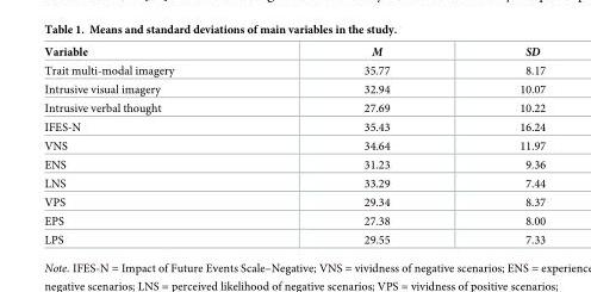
<table><thead><tr><td>Variable</td><td>M</td><td>SD</td></tr></thead><tbody><tr><td>Trait multi-modal imagery</td><td>35.77</td><td>8.17</td></tr><tr><td>Intrusive visual imagery</td><td>32.94</td><td>10.07</td></tr><tr><td>Intrusive verbal thought</td><td>27.69</td><td>10.22</td></tr><tr><td>IFES-N</td><td>35.43</td><td>16.24</td></tr><tr><td>VNS</td><td>34.64</td><td>11.97</td></tr><tr><td>ENS</td><td>31.23</td><td>9.36</td></tr><tr><td>LNS</td><td>33.29</td><td>7.44</td></tr><tr><td>VPS</td><td>29.34</td><td>8.37</td></tr><tr><td>EPS</td><td>27.38</td><td>8.00</td></tr><tr><td>LPS</td><td>29.55</td><td>7.33</td></tr></tbody></table>